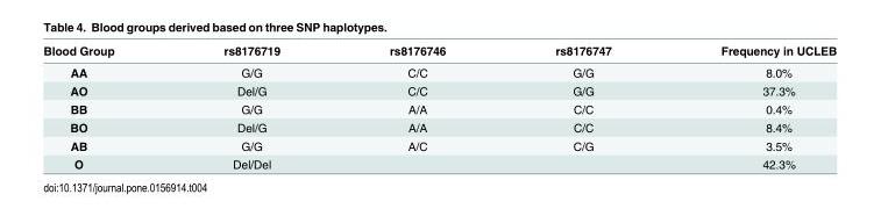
<table><thead><tr><td>Blood Group</td><td>rs8176719</td><td>rs8176746</td><td>rs8176747</td><td>Frequency in UCLEB</td></tr></thead><tbody><tr><td>AA</td><td>G/G</td><td>C/C</td><td>G/G</td><td>8.0%</td></tr><tr><td>AO</td><td>Del/G</td><td>C/C</td><td>G/G</td><td>37.3%</td></tr><tr><td>BB</td><td>G/G</td><td>A/A</td><td>C/C</td><td>0.4%</td></tr><tr><td>BO</td><td>Del/G</td><td>A/A</td><td>C/C</td><td>8.4%</td></tr><tr><td>AB</td><td>G/G</td><td>A/C</td><td>C/G</td><td>3.5%</td></tr><tr><td>O</td><td>Del/Del</td><td></td><td></td><td>42.3%</td></tr></tbody></table>